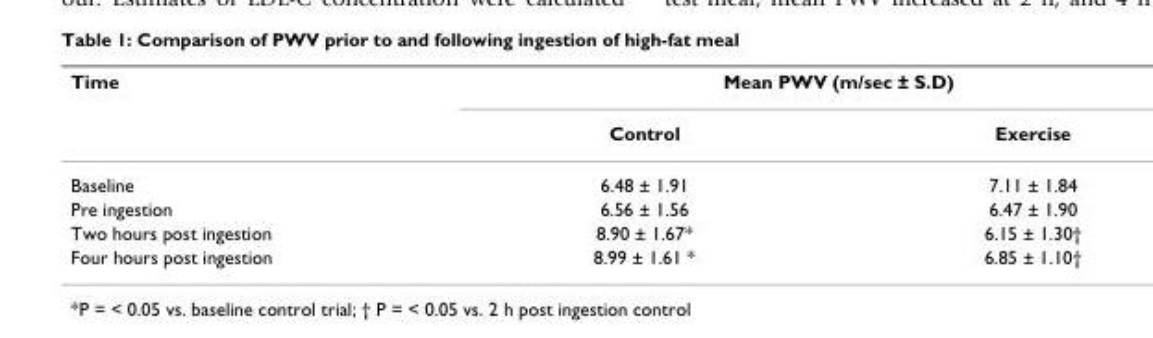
<table><thead><tr><td rowspan="2">Time</td><td colspan="2">Mean PWV (m/sec ± S.D)</td></tr><tr><td>Control</td><td>Exercise</td></tr></thead><tbody><tr><td>Baseline</td><td>6.48 ± 1.91</td><td>7.11 ± 1.84</td></tr><tr><td>Pre ingestion</td><td>6.56 ± 1.56</td><td>6.47 ± 1.90</td></tr><tr><td>Two hours post ingestion</td><td>8.90 ± 1.67*</td><td>6.15 ± 1.30†</td></tr><tr><td>Four hours post ingestion</td><td>8.99 ± 1.61 *</td><td>6.85 ± 1.10†</td></tr></tbody></table>